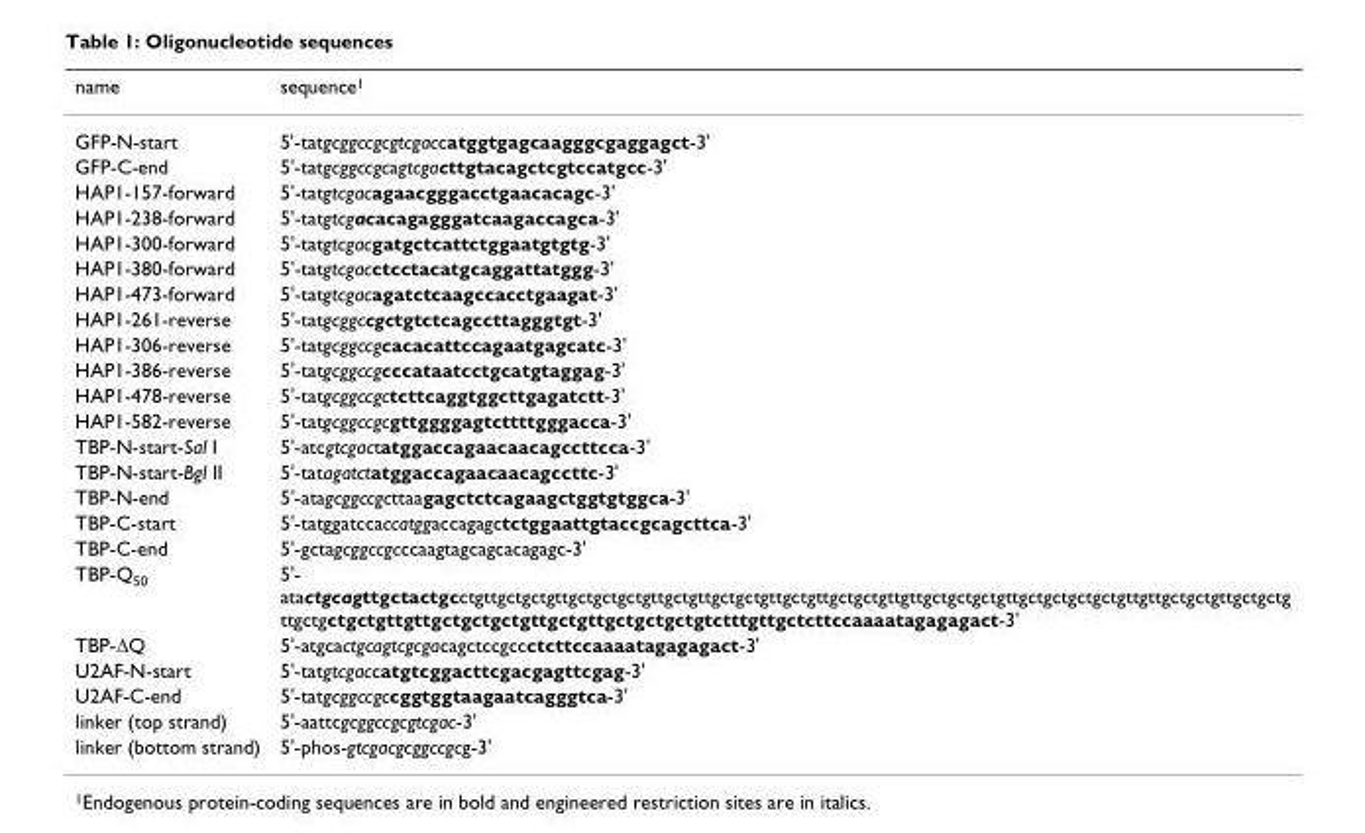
<table><thead><tr><td>name</td><td>sequence<sup>1</sup></td></tr></thead><tbody><tr><td>GFP-N-start</td><td>5&#x27;-tatgcggccgcgtcgaccatggtgagcaagggcgaggagct-3&#x27;</td></tr><tr><td>GFP-C-end</td><td>5&#x27;-tatgcggccgcagtcgacttgtacagctcgtccatgcc-3&#x27;</td></tr><tr><td>HAP1-157-forward</td><td>5&#x27;-tatgtcgacagaacgggacctgaacacagc-3&#x27;</td></tr><tr><td>HAP1-238-forward</td><td>5&#x27;-tatgtcgacacagagggatcaagaccagca-3&#x27;</td></tr><tr><td>HAP1-300-forward</td><td>5&#x27;-tatgtcgacgatgctcattctggaatgtgtg-3&#x27;</td></tr><tr><td>HAP1-380-forward</td><td>5&#x27;-tatgtcgacctcctacatgcaggattatggg-3&#x27;</td></tr><tr><td>HAP1-473-forward</td><td>5&#x27;-tatgtcgacagatctcaagccacctgaagat-3&#x27;</td></tr><tr><td>HAP1-261-reverse</td><td>5&#x27;-tatgcggccgctgtctcagccttagggtgt-3&#x27;</td></tr><tr><td>HAP1-306-reverse</td><td>5&#x27;-tatgcggccgcacacattccagaatgagcatc-3&#x27;</td></tr><tr><td>HAP1-386-reverse</td><td>5&#x27;-tatgcggccgcccataatcctgcatgtaggag-3&#x27;</td></tr><tr><td>HAP1-478-reverse</td><td>5&#x27;-tatgcggccgctcttcaggtggcttgagatctt-3&#x27;</td></tr><tr><td>HAP1-582-reverse</td><td>5&#x27;-tatgcggccgcgttggggagtcttttgggacca-3&#x27;</td></tr><tr><td>TBP-N-start-Sal I</td><td>5&#x27;-atcgtcgactatggaccagaacaacagccttcca-3&#x27;</td></tr><tr><td>TBP-N-start-Bgl II</td><td>5&#x27;-tatagatctatggaccagaacaacagccttc-3&#x27;</td></tr><tr><td>TBP-N-end</td><td>5&#x27;-atagcggccgcttaagagctctcagaagctggtgtggca-3&#x27;</td></tr><tr><td>TBP-C-start</td><td>5&#x27;-tatggatccaccatggaccagagctctggaattgtaccgcagcttca-3&#x27;</td></tr><tr><td>TBP-C-end</td><td>5&#x27;-gctagcggccgcccaagtagcagcacagagc-3&#x27;</td></tr><tr><td>TBP-Q<sub>50</sub></td><td>5&#x27;- atactgcagttgctactgcctgttgctgctgttgctgctgctgttgctgttgctgctgttgctgttgctgctgttgttgctgctgctgttgctgctgctgctgttgttgctgctgttgctgctg ttgctgctgctgttgttgctgctgctgttgctgttgctgctgctgtctttgttgctcttccaaaatagagagact-3&#x27;</td></tr><tr><td>TBP-∆Q</td><td>5&#x27;-atgcactgcagtcgcgacagctccgccctcttccaaaatagagagact-3&#x27;</td></tr><tr><td>U2AF-N-start</td><td>5&#x27;-tatgtcgaccatgtcggacttcgacgagttcgag-3&#x27;</td></tr><tr><td>U2AF-C-end</td><td>5&#x27;-tatgcggccgccggtggtaagaatcagggtca-3&#x27;</td></tr><tr><td>linker (top strand)</td><td>5&#x27;-aattcgcggccgcgtcgac-3&#x27;</td></tr><tr><td>linker (bottom strand)</td><td>5&#x27;-phos-gtcgacgcggccgcg-3&#x27;</td></tr></tbody></table>